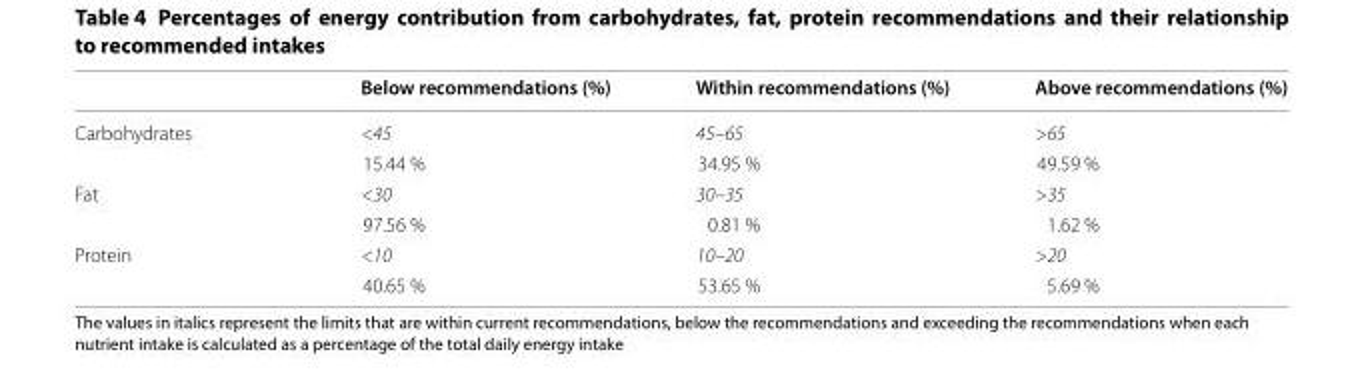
<table><thead><tr><td></td><td>Below recommendations (%)</td><td>Within recommendations (%)</td><td>Above recommendations (%)</td></tr></thead><tbody><tr><td rowspan="2">Carbohydrates</td><td>&lt;45</td><td>45–65</td><td>&gt;65</td></tr><tr><td>15.44 %</td><td>34.95 %</td><td>49.59 %</td></tr><tr><td rowspan="2">Fat</td><td>&lt;30</td><td>30–35</td><td>&gt;35</td></tr><tr><td>97.56 %</td><td>0.81 %</td><td>1.62 %</td></tr><tr><td rowspan="2">Protein</td><td>&lt;10</td><td>10–20</td><td>&gt;20</td></tr><tr><td>40.65 %</td><td>53.65 %</td><td>5.69 %</td></tr></tbody></table>